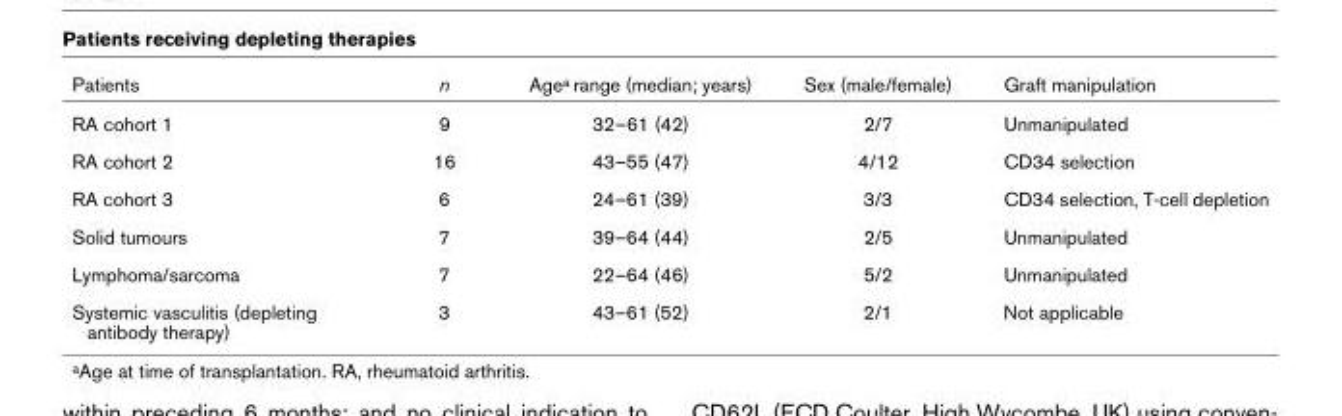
<table><thead><tr><td>Patients</td><td>n</td><td>Agea range (median; years)</td><td>Sex (male/female)</td><td>Graft manipulation</td></tr></thead><tbody><tr><td>RA cohort 1</td><td>9</td><td>32–61 (42)</td><td>2/7</td><td>Unmanipulated</td></tr><tr><td>RA cohort 2</td><td>16</td><td>43–55 (47)</td><td>4/12</td><td>CD34 selection</td></tr><tr><td>RA cohort 3</td><td>6</td><td>24–61 (39)</td><td>3/3</td><td>CD34 selection, T-cell depletion</td></tr><tr><td>Solid tumours</td><td>7</td><td>39–64 (44)</td><td>2/5</td><td>Unmanipulated</td></tr><tr><td>Lymphoma/sarcoma</td><td>7</td><td>22–64 (46)</td><td>5/2</td><td>Unmanipulated</td></tr><tr><td>Systemic vasculitis (depleting antibody therapy)</td><td>3</td><td>43–61 (52)</td><td>2/1</td><td>Not applicable</td></tr></tbody></table>